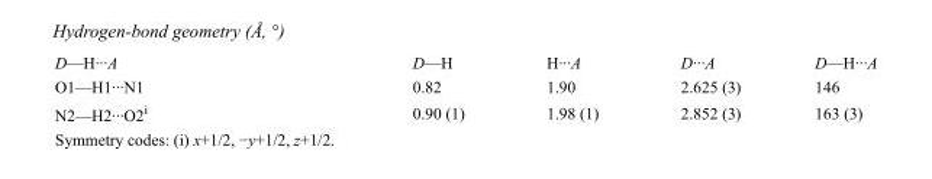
<table><tbody><tr><td>D—H···A</td><td>D—H</td><td>H···A</td><td>D···A</td><td>D—H···A</td></tr><tr><td>O1—H1···N1</td><td>0.82</td><td>1.90</td><td>2.625 (3)</td><td>146</td></tr><tr><td>N2—H2···O2<sup>i</sup></td><td>0.90 (1)</td><td>1.98 (1)</td><td>2.852 (3)</td><td>163 (3)</td></tr></tbody></table>